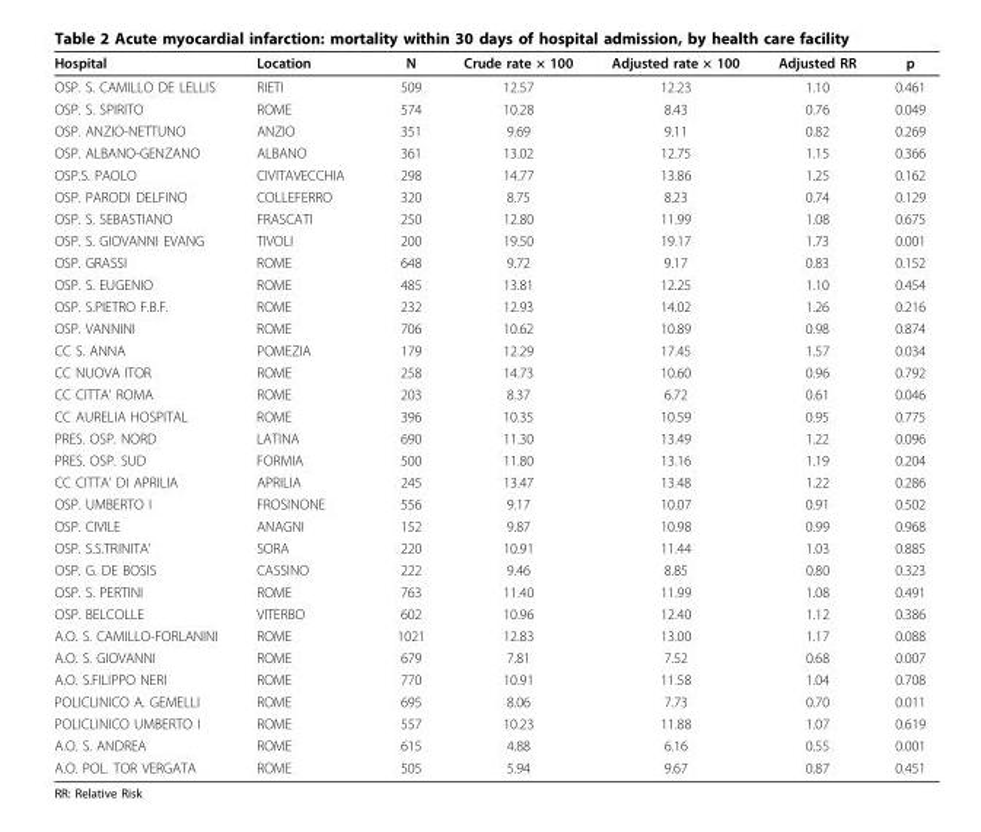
<table><thead><tr><td>Hospital</td><td>Location</td><td>N</td><td>Crude rate × 100</td><td>Adjusted rate × 100</td><td>Adjusted RR</td><td>p</td></tr></thead><tbody><tr><td>OSP. S. CAMILLO DE LELLIS</td><td>RIETI</td><td>509</td><td>12.57</td><td>12.23</td><td>1.10</td><td>0.461</td></tr><tr><td>OSP. S. SPIRITO</td><td>ROME</td><td>574</td><td>10.28</td><td>8.43</td><td>0.76</td><td>0.049</td></tr><tr><td>OSP. ANZIO-NETTUNO</td><td>ANZIO</td><td>351</td><td>9.69</td><td>9.11</td><td>0.82</td><td>0.269</td></tr><tr><td>OSP. ALBANO-GENZANO</td><td>ALBANO</td><td>361</td><td>13.02</td><td>12.75</td><td>1.15</td><td>0.366</td></tr><tr><td>OSP.S. PAOLO</td><td>CIVITAVECCHIA</td><td>298</td><td>14.77</td><td>13.86</td><td>1.25</td><td>0.162</td></tr><tr><td>OSP. PARODI DELFINO</td><td>COLLEFERRO</td><td>320</td><td>8.75</td><td>8.23</td><td>0.74</td><td>0.129</td></tr><tr><td>OSP. S. SEBASTIANO</td><td>FRASCATI</td><td>250</td><td>12.80</td><td>11.99</td><td>1.08</td><td>0.675</td></tr><tr><td>OSP. S. GIOVANNI EVANG</td><td>TIVOLI</td><td>200</td><td>19.50</td><td>19.17</td><td>1.73</td><td>0.001</td></tr><tr><td>OSP. GRASSI</td><td>ROME</td><td>648</td><td>9.72</td><td>9.17</td><td>0.83</td><td>0.152</td></tr><tr><td>OSP. S. EUGENIO</td><td>ROME</td><td>485</td><td>13.81</td><td>12.25</td><td>1.10</td><td>0.454</td></tr><tr><td>OSP. S.PIETRO F.B.F.</td><td>ROME</td><td>232</td><td>12.93</td><td>14.02</td><td>1.26</td><td>0.216</td></tr><tr><td>OSP. VANNINI</td><td>ROME</td><td>706</td><td>10.62</td><td>10.89</td><td>0.98</td><td>0.874</td></tr><tr><td>CC S. ANNA</td><td>POMEZIA</td><td>179</td><td>12.29</td><td>17.45</td><td>1.57</td><td>0.034</td></tr><tr><td>CC NUOVA ITOR</td><td>ROME</td><td>258</td><td>14.73</td><td>10.60</td><td>0.96</td><td>0.792</td></tr><tr><td>CC CITTA’ ROMA</td><td>ROME</td><td>203</td><td>8.37</td><td>6.72</td><td>0.61</td><td>0.046</td></tr><tr><td>CC AURELIA HOSPITAL</td><td>ROME</td><td>396</td><td>10.35</td><td>10.59</td><td>0.95</td><td>0.775</td></tr><tr><td>PRES. OSP. NORD</td><td>LATINA</td><td>690</td><td>11.30</td><td>13.49</td><td>1.22</td><td>0.096</td></tr><tr><td>PRES. OSP. SUD</td><td>FORMIA</td><td>500</td><td>11.80</td><td>13.16</td><td>1.19</td><td>0.204</td></tr><tr><td>CC CITTA’ DI APRILIA</td><td>APRILIA</td><td>245</td><td>13.47</td><td>13.48</td><td>1.22</td><td>0.286</td></tr><tr><td>OSP. UMBERTO I</td><td>FROSINONE</td><td>556</td><td>9.17</td><td>10.07</td><td>0.91</td><td>0.502</td></tr><tr><td>OSP. CIVILE</td><td>ANAGNI</td><td>152</td><td>9.87</td><td>10.98</td><td>0.99</td><td>0.968</td></tr><tr><td>OSP. S.S.TRINITA’</td><td>SORA</td><td>220</td><td>10.91</td><td>11.44</td><td>1.03</td><td>0.885</td></tr><tr><td>OSP. G. DE BOSIS</td><td>CASSINO</td><td>222</td><td>9.46</td><td>8.85</td><td>0.80</td><td>0.323</td></tr><tr><td>OSP. S. PERTINI</td><td>ROME</td><td>763</td><td>11.40</td><td>11.99</td><td>1.08</td><td>0.491</td></tr><tr><td>OSP. BELCOLLE</td><td>VITERBO</td><td>602</td><td>10.96</td><td>12.40</td><td>1.12</td><td>0.386</td></tr><tr><td>A.O. S. CAMILLO-FORLANINI</td><td>ROME</td><td>1021</td><td>12.83</td><td>13.00</td><td>1.17</td><td>0.088</td></tr><tr><td>A.O. S. GIOVANNI</td><td>ROME</td><td>679</td><td>7.81</td><td>7.52</td><td>0.68</td><td>0.007</td></tr><tr><td>A.O. S.FILIPPO NERI</td><td>ROME</td><td>770</td><td>10.91</td><td>11.58</td><td>1.04</td><td>0.708</td></tr><tr><td>POLICLINICO A. GEMELLI</td><td>ROME</td><td>695</td><td>8.06</td><td>7.73</td><td>0.70</td><td>0.011</td></tr><tr><td>POLICLINICO UMBERTO I</td><td>ROME</td><td>557</td><td>10.23</td><td>11.88</td><td>1.07</td><td>0.619</td></tr><tr><td>A.O. S. ANDREA</td><td>ROME</td><td>615</td><td>4.88</td><td>6.16</td><td>0.55</td><td>0.001</td></tr><tr><td>A.O. POL. TOR VERGATA</td><td>ROME</td><td>505</td><td>5.94</td><td>9.67</td><td>0.87</td><td>0.451</td></tr></tbody></table>